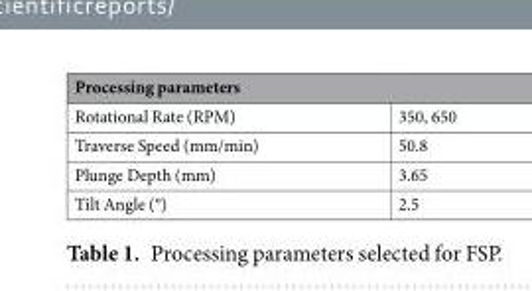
<table><thead><tr><td colspan="2">Processing parameters</td></tr><tr><td>Rotational Rate (RPM)</td><td>350, 650</td></tr></thead><tbody><tr><td>Traverse Speed (mm/min)</td><td>50.8</td></tr><tr><td>Plunge Depth (mm)</td><td>3.65</td></tr><tr><td>Tilt Angle (°)</td><td>2.5</td></tr></tbody></table>